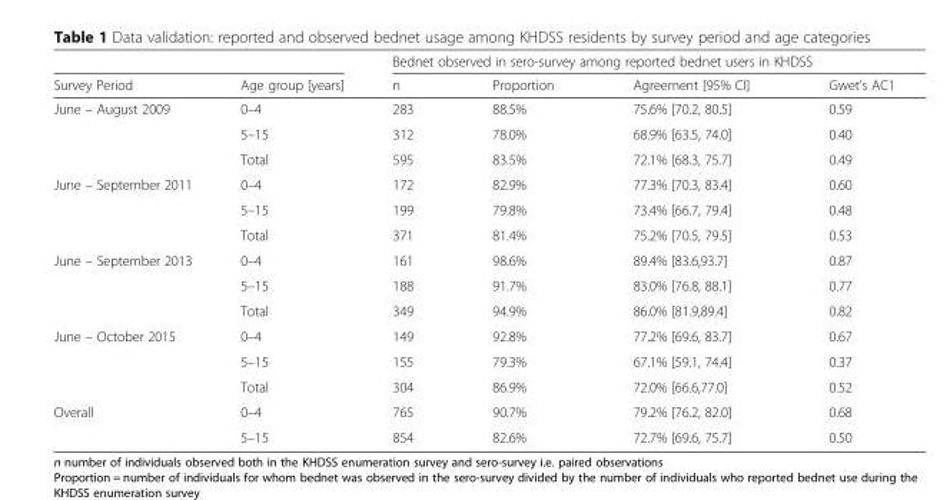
<table><thead><tr><td rowspan="2">Survey Period</td><td rowspan="2">Age group [years]</td><td colspan="4">Bednet observed in sero-survey among reported bednet users in KHDSS</td></tr><tr><td>n</td><td>Proportion</td><td>Agreement [95% CI]</td><td>Gwet’s AC1</td></tr></thead><tbody><tr><td rowspan="3">June – August 2009</td><td>0–4</td><td>283</td><td>88.5%</td><td>75.6% [70.2, 80.5]</td><td>0.59</td></tr><tr><td>5–15</td><td>312</td><td>78.0%</td><td>68.9% [63.5, 74.0]</td><td>0.40</td></tr><tr><td>Total</td><td>595</td><td>83.5%</td><td>72.1% [68.3, 75.7]</td><td>0.49</td></tr><tr><td rowspan="3">June – September 2011</td><td>0–4</td><td>172</td><td>82.9%</td><td>77.3% [70.3, 83.4]</td><td>0.60</td></tr><tr><td>5–15</td><td>199</td><td>79.8%</td><td>73.4% [66.7, 79.4]</td><td>0.48</td></tr><tr><td>Total</td><td>371</td><td>81.4%</td><td>75.2% [70.5, 79.5]</td><td>0.53</td></tr><tr><td rowspan="3">June – September 2013</td><td>0–4</td><td>161</td><td>98.6%</td><td>89.4% [83.6,93.7]</td><td>0.87</td></tr><tr><td>5–15</td><td>188</td><td>91.7%</td><td>83.0% [76.8, 88.1]</td><td>0.77</td></tr><tr><td>Total</td><td>349</td><td>94.9%</td><td>86.0% [81.9,89.4]</td><td>0.82</td></tr><tr><td rowspan="3">June – October 2015</td><td>0–4</td><td>149</td><td>92.8%</td><td>77.2% [69.6, 83.7]</td><td>0.67</td></tr><tr><td>5–15</td><td>155</td><td>79.3%</td><td>67.1% [59.1, 74.4]</td><td>0.37</td></tr><tr><td>Total</td><td>304</td><td>86.9%</td><td>72.0% [66.6,77.0]</td><td>0.52</td></tr><tr><td rowspan="2">Overall</td><td>0–4</td><td>765</td><td>90.7%</td><td>79.2% [76.2, 82.0]</td><td>0.68</td></tr><tr><td>5–15</td><td>854</td><td>82.6%</td><td>72.7% [69.6, 75.7]</td><td>0.50</td></tr></tbody></table>